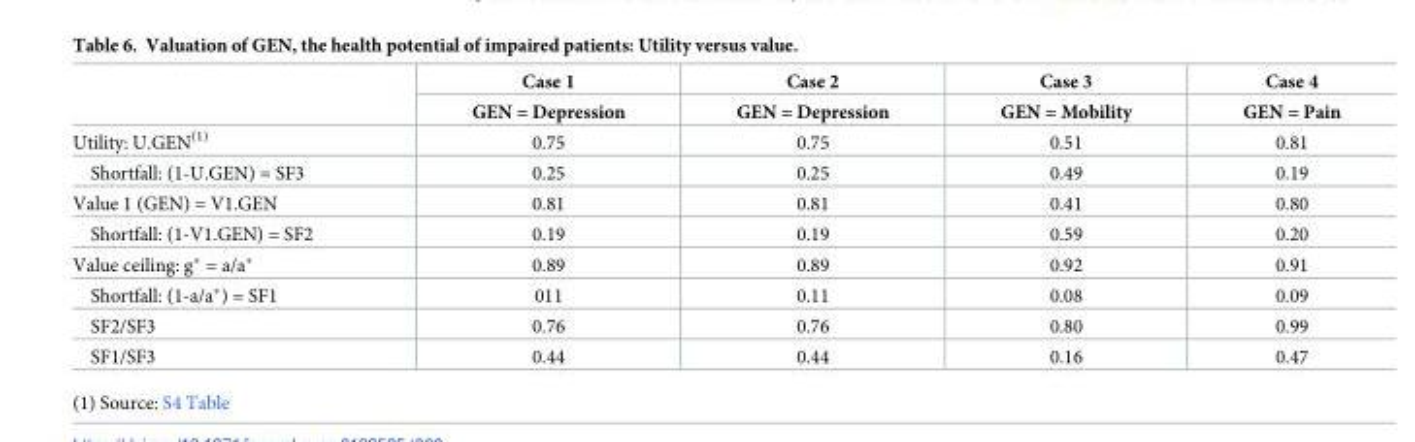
<table><thead><tr><td rowspan="2"></td><td rowspan="2">Case 1 GEN = Depression</td><td rowspan="2">Case 2 GEN = Depression</td><td rowspan="2">Case 3 GEN = Mobility</td><td rowspan="2">Case 4 GEN = Pain</td></tr><tr></tr></thead><tbody><tr><td>Utility: U.GEN<sup>(1)</sup></td><td>0.75</td><td>0.75</td><td>0.51</td><td>0.81</td></tr><tr><td>Shortfall: (1-U.GEN) = SF3</td><td>0.25</td><td>0.25</td><td>0.49</td><td>0.19</td></tr><tr><td>Value 1 (GEN) = V1.GEN</td><td>0.81</td><td>0.81</td><td>0.41</td><td>0.80</td></tr><tr><td>Shortfall: (1-V1.GEN) = SF2</td><td>0.19</td><td>0.19</td><td>0.59</td><td>0.20</td></tr><tr><td>Value ceiling: g* = a/a*</td><td>0.89</td><td>0.89</td><td>0.92</td><td>0.91</td></tr><tr><td>Shortfall: (1-a/a*) = SF1</td><td>011</td><td>0.11</td><td>0.08</td><td>0.09</td></tr><tr><td>SF2/SF3</td><td>0.76</td><td>0.76</td><td>0.80</td><td>0.99</td></tr><tr><td>SF1/SF3</td><td>0.44</td><td>0.44</td><td>0.16</td><td>0.47</td></tr></tbody></table>